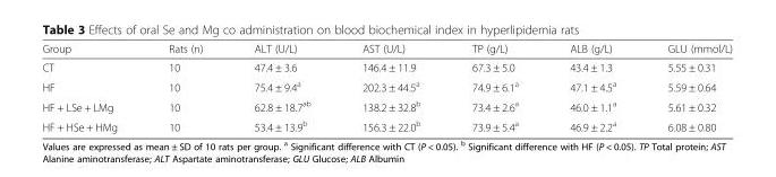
<table><thead><tr><td>Group</td><td>Rats (n)</td><td>ALT (U/L)</td><td>AST (U/L)</td><td>TP (g/L)</td><td>ALB (g/L)</td><td>GLU (mmol/L)</td></tr></thead><tbody><tr><td>CT</td><td>10</td><td>47.4 ± 3.6</td><td>146.4 ± 11.9</td><td>67.3 ± 5.0</td><td>43.4 ± 1.3</td><td>5.55 ± 0.31</td></tr><tr><td>HF</td><td>10</td><td>75.4 ± 9.4<sup>a</sup></td><td>202.3 ± 44.5<sup>a</sup></td><td>74.9 ± 6.1<sup>a</sup></td><td>47.1 ± 4.5<sup>a</sup></td><td>5.59 ± 0.64</td></tr><tr><td>HF + LSe + LMg</td><td>10</td><td>62.8 ± 18.7<sup>ab</sup></td><td>138.2 ± 32.8<sup>b</sup></td><td>73.4 ± 2.6<sup>a</sup></td><td>46.0 ± 1.1<sup>a</sup></td><td>5.61 ± 0.32</td></tr><tr><td>HF + HSe + HMg</td><td>10</td><td>53.4 ± 13.9<sup>b</sup></td><td>156.3 ± 22.0<sup>b</sup></td><td>73.9 ± 5.4<sup>a</sup></td><td>46.9 ± 2.2<sup>a</sup></td><td>6.08 ± 0.80</td></tr></tbody></table>